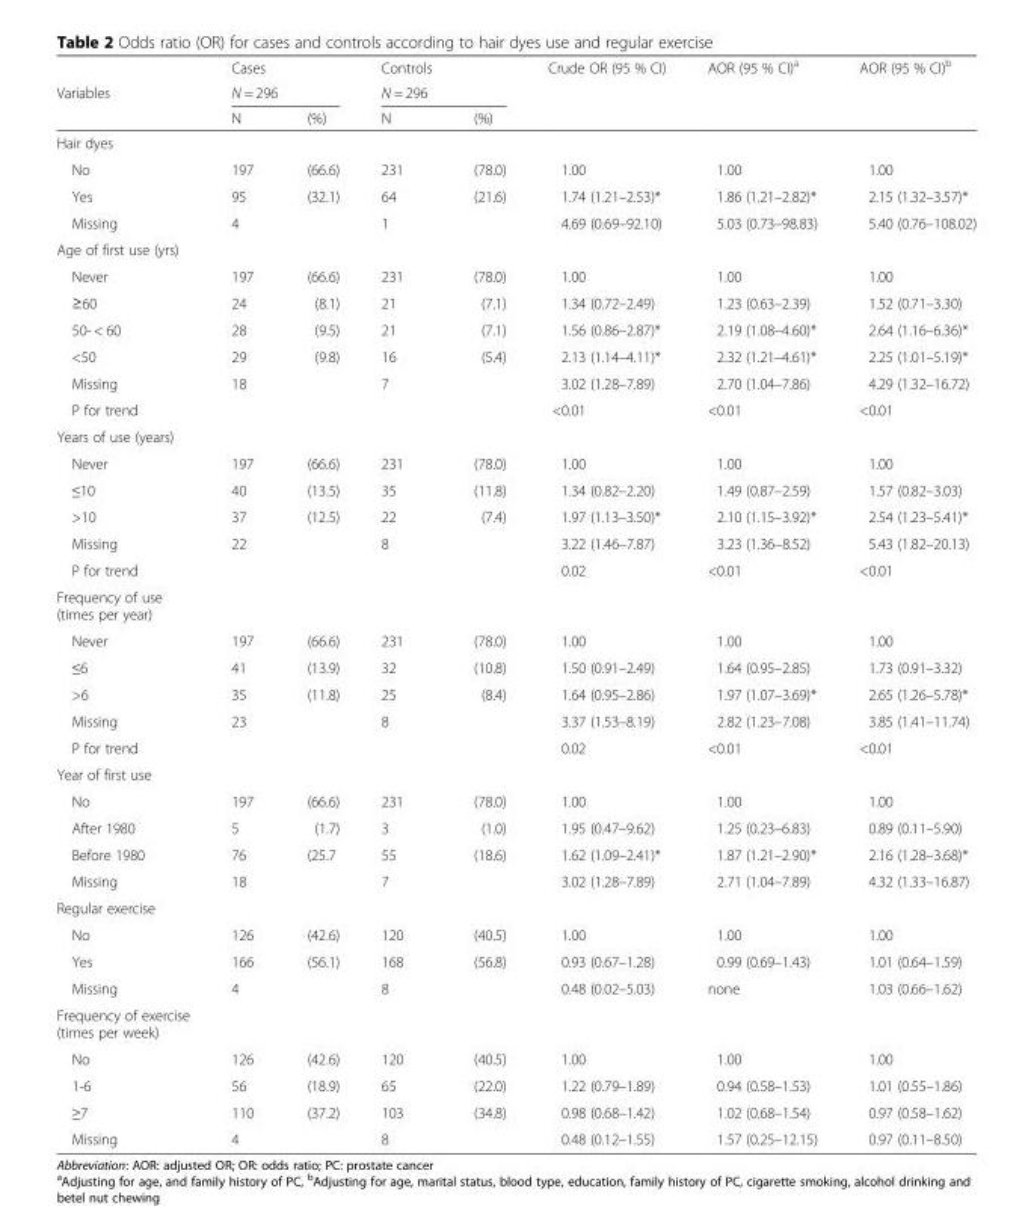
<table><thead><tr><td rowspan="3">Variables</td><td>Cases</td><td></td><td>Controls</td><td></td><td rowspan="3">Crude OR (95 % CI)</td><td rowspan="3">AOR (95 % CI)<sup>a</sup></td><td rowspan="3">AOR (95 % CI)<sup>b</sup></td></tr><tr><td colspan="2">N = 296</td><td colspan="2">N = 296</td></tr><tr><td>N</td><td>(%)</td><td>N</td><td>(%)</td></tr></thead><tbody><tr><td colspan="8">Hair dyes</td></tr><tr><td>No</td><td>197</td><td>(66.6)</td><td>231</td><td>(78.0)</td><td>1.00</td><td>1.00</td><td>1.00</td></tr><tr><td>Yes</td><td>95</td><td>(32.1)</td><td>64</td><td>(21.6)</td><td>1.74 (1.21–2.53)*</td><td>1.86 (1.21–2.82)*</td><td>2.15 (1.32–3.57)*</td></tr><tr><td>Missing</td><td>4</td><td></td><td>1</td><td></td><td>4.69 (0.69–92.10)</td><td>5.03 (0.73–98.83)</td><td>5.40 (0.76–108.02)</td></tr><tr><td colspan="8">Age of first use (yrs)</td></tr><tr><td>Never</td><td>197</td><td>(66.6)</td><td>231</td><td>(78.0)</td><td>1.00</td><td>1.00</td><td>1.00</td></tr><tr><td>≥60</td><td>24</td><td>(8.1)</td><td>21</td><td>(7.1)</td><td>1.34 (0.72–2.49)</td><td>1.23 (0.63–2.39)</td><td>1.52 (0.71–3.30)</td></tr><tr><td>50- &lt; 60</td><td>28</td><td>(9.5)</td><td>21</td><td>(7.1)</td><td>1.56 (0.86–2.87)*</td><td>2.19 (1.08–4.60)*</td><td>2.64 (1.16–6.36)*</td></tr><tr><td>&lt;50</td><td>29</td><td>(9.8)</td><td>16</td><td>(5.4)</td><td>2.13 (1.14–4.11)*</td><td>2.32 (1.21–4.61)*</td><td>2.25 (1.01–5.19)*</td></tr><tr><td>Missing</td><td>18</td><td></td><td>7</td><td></td><td>3.02 (1.28–7.89)</td><td>2.70 (1.04–7.86)</td><td>4.29 (1.32–16.72)</td></tr><tr><td>P for trend</td><td></td><td></td><td></td><td></td><td>&lt;0.01</td><td>&lt;0.01</td><td>&lt;0.01</td></tr><tr><td colspan="8">Years of use (years)</td></tr><tr><td>Never</td><td>197</td><td>(66.6)</td><td>231</td><td>(78.0)</td><td>1.00</td><td>1.00</td><td>1.00</td></tr><tr><td>≤10</td><td>40</td><td>(13.5)</td><td>35</td><td>(11.8)</td><td>1.34 (0.82–2.20)</td><td>1.49 (0.87–2.59)</td><td>1.57 (0.82–3.03)</td></tr><tr><td>&gt;10</td><td>37</td><td>(12.5)</td><td>22</td><td>(7.4)</td><td>1.97 (1.13–3.50)*</td><td>2.10 (1.15–3.92)*</td><td>2.54 (1.23–5.41)*</td></tr><tr><td>Missing</td><td>22</td><td></td><td>8</td><td></td><td>3.22 (1.46–7.87)</td><td>3.23 (1.36–8.52)</td><td>5.43 (1.82–20.13)</td></tr><tr><td>P for trend</td><td></td><td></td><td></td><td></td><td>0.02</td><td>&lt;0.01</td><td>&lt;0.01</td></tr><tr><td colspan="8">Frequency of use (times per year)</td></tr><tr><td>Never</td><td>197</td><td>(66.6)</td><td>231</td><td>(78.0)</td><td>1.00</td><td>1.00</td><td>1.00</td></tr><tr><td>≤6</td><td>41</td><td>(13.9)</td><td>32</td><td>(10.8)</td><td>1.50 (0.91–2.49)</td><td>1.64 (0.95–2.85)</td><td>1.73 (0.91–3.32)</td></tr><tr><td>&gt;6</td><td>35</td><td>(11.8)</td><td>25</td><td>(8.4)</td><td>1.64 (0.95–2.86)</td><td>1.97 (1.07–3.69)*</td><td>2.65 (1.26–5.78)*</td></tr><tr><td>Missing</td><td>23</td><td></td><td>8</td><td></td><td>3.37 (1.53–8.19)</td><td>2.82 (1.23–7.08)</td><td>3.85 (1.41–11.74)</td></tr><tr><td>P for trend</td><td></td><td></td><td></td><td></td><td>0.02</td><td>&lt;0.01</td><td>&lt;0.01</td></tr><tr><td colspan="8">Year of first use</td></tr><tr><td>No</td><td>197</td><td>(66.6)</td><td>231</td><td>(78.0)</td><td>1.00</td><td>1.00</td><td>1.00</td></tr><tr><td>After 1980</td><td>5</td><td>(1.7)</td><td>3</td><td>(1.0)</td><td>1.95 (0.47–9.62)</td><td>1.25 (0.23–6.83)</td><td>0.89 (0.11–5.90)</td></tr><tr><td>Before 1980</td><td>76</td><td>(25.7</td><td>55</td><td>(18.6)</td><td>1.62 (1.09–2.41)*</td><td>1.87 (1.21–2.90)*</td><td>2.16 (1.28–3.68)*</td></tr><tr><td>Missing</td><td>18</td><td></td><td>7</td><td></td><td>3.02 (1.28–7.89)</td><td>2.71 (1.04–7.89)</td><td>4.32 (1.33–16.87)</td></tr><tr><td colspan="8">Regular exercise</td></tr><tr><td>No</td><td>126</td><td>(42.6)</td><td>120</td><td>(40.5)</td><td>1.00</td><td>1.00</td><td>1.00</td></tr><tr><td>Yes</td><td>166</td><td>(56.1)</td><td>168</td><td>(56.8)</td><td>0.93 (0.67–1.28)</td><td>0.99 (0.69–1.43)</td><td>1.01 (0.64–1.59)</td></tr><tr><td>Missing</td><td>4</td><td></td><td>8</td><td></td><td>0.48 (0.02–5.03)</td><td>none</td><td>1.03 (0.66–1.62)</td></tr><tr><td colspan="8">Frequency of exercise (times per week)</td></tr><tr><td>No</td><td>126</td><td>(42.6)</td><td>120</td><td>(40.5)</td><td>1.00</td><td>1.00</td><td>1.00</td></tr><tr><td>1-6</td><td>56</td><td>(18.9)</td><td>65</td><td>(22.0)</td><td>1.22 (0.79–1.89)</td><td>0.94 (0.58–1.53)</td><td>1.01 (0.55–1.86)</td></tr><tr><td>≥7</td><td>110</td><td>(37.2)</td><td>103</td><td>(34.8)</td><td>0.98 (0.68–1.42)</td><td>1.02 (0.68–1.54)</td><td>0.97 (0.58–1.62)</td></tr><tr><td>Missing</td><td>4</td><td></td><td>8</td><td></td><td>0.48 (0.12–1.55)</td><td>1.57 (0.25–12.15)</td><td>0.97 (0.11–8.50)</td></tr></tbody></table>